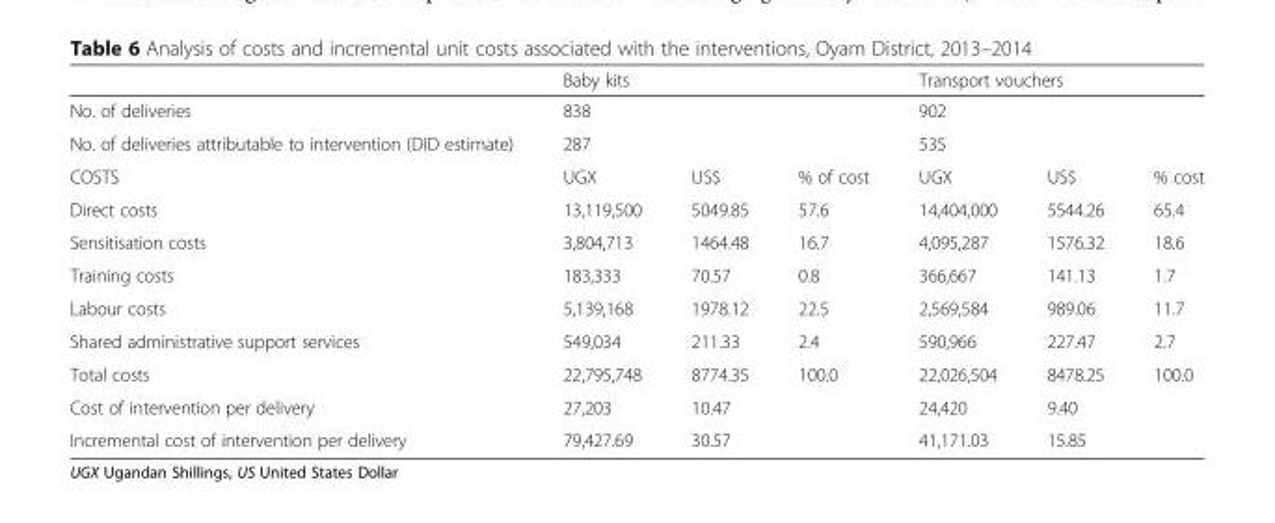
<table><thead><tr><td rowspan="4">No. of deliveries No. of deliveries attributable to intervention (DID estimate) COSTS</td><td rowspan="3" colspan="3">Baby kits 838 287</td><td rowspan="3" colspan="3">Transport vouchers 902 535</td></tr><tr></tr><tr></tr><tr><td>UGX</td><td>US$</td><td>% of cost</td><td>UGX</td><td>US$</td><td>% cost</td></tr></thead><tbody><tr><td>Direct costs</td><td>13,119,500</td><td>5049.85</td><td>57.6</td><td>14,404,000</td><td>5544.26</td><td>65.4</td></tr><tr><td>Sensitisation costs</td><td>3,804,713</td><td>1464.48</td><td>16.7</td><td>4,095,287</td><td>1576.32</td><td>18.6</td></tr><tr><td>Training costs</td><td>183,333</td><td>70.57</td><td>0.8</td><td>366,667</td><td>141.13</td><td>1.7</td></tr><tr><td>Labour costs</td><td>5,139,168</td><td>1978.12</td><td>22.5</td><td>2,569,584</td><td>989.06</td><td>11.7</td></tr><tr><td>Shared administrative support services</td><td>549,034</td><td>211.33</td><td>2.4</td><td>590,966</td><td>227.47</td><td>2.7</td></tr><tr><td>Total costs</td><td>22,795,748</td><td>8774.35</td><td>100.0</td><td>22,026,504</td><td>8478.25</td><td>100.0</td></tr><tr><td>Cost of intervention per delivery</td><td>27,203</td><td>10.47</td><td></td><td>24,420</td><td>9.40</td><td></td></tr><tr><td>Incremental cost of intervention per delivery</td><td>79,427.69</td><td>30.57</td><td></td><td>41,171.03</td><td>15.85</td><td></td></tr></tbody></table>